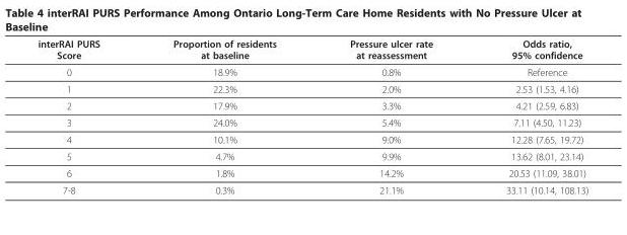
<table><thead><tr><td>interRAI PURS Score</td><td>Proportion of residents at baseline</td><td>Pressure ulcer rate at reassessment</td><td>Odds ratio, 95% confidence</td></tr></thead><tbody><tr><td>0</td><td>18.9%</td><td>0.8%</td><td>Reference</td></tr><tr><td>1</td><td>22.3%</td><td>2.0%</td><td>2.53 (1.53, 4.16)</td></tr><tr><td>2</td><td>17.9%</td><td>3.3%</td><td>4.21 (2.59, 6.83)</td></tr><tr><td>3</td><td>24.0%</td><td>5.4%</td><td>7.11 (4.50, 11.23)</td></tr><tr><td>4</td><td>10.1%</td><td>9.0%</td><td>12.28 (7.65, 19.72)</td></tr><tr><td>5</td><td>4.7%</td><td>9.9%</td><td>13.62 (8.01, 23.14)</td></tr><tr><td>6</td><td>1.8%</td><td>14.2%</td><td>20.53 (11.09, 38.01)</td></tr><tr><td>7-8</td><td>0.3%</td><td>21.1%</td><td>33.11 (10.14, 108.13)</td></tr></tbody></table>